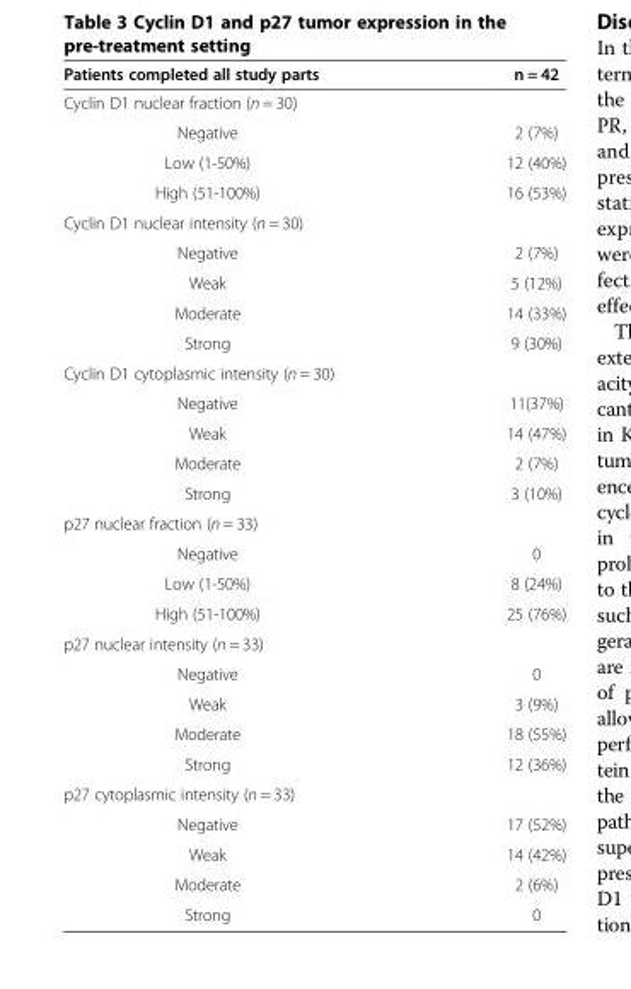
<table><thead><tr><td>Patients completed all study parts</td><td>n = 42</td></tr></thead><tbody><tr><td colspan="2">Cyclin D1 nuclear fraction (n = 30)</td></tr><tr><td>Negative</td><td>2 (7%)</td></tr><tr><td>Low (1-50%)</td><td>12 (40%)</td></tr><tr><td>High (51-100%)</td><td>16 (53%)</td></tr><tr><td colspan="2">Cyclin D1 nuclear intensity (n = 30)</td></tr><tr><td>Negative</td><td>2 (7%)</td></tr><tr><td>Weak</td><td>5 (12%)</td></tr><tr><td>Moderate</td><td>14 (33%)</td></tr><tr><td>Strong</td><td>9 (30%)</td></tr><tr><td colspan="2">Cyclin D1 cytoplasmic intensity (n = 30)</td></tr><tr><td>Negative</td><td>11(37%)</td></tr><tr><td>Weak</td><td>14 (47%)</td></tr><tr><td>Moderate</td><td>2 (7%)</td></tr><tr><td>Strong</td><td>3 (10%)</td></tr><tr><td colspan="2">p27 nuclear fraction (n = 33)</td></tr><tr><td>Negative</td><td>0</td></tr><tr><td>Low (1-50%)</td><td>8 (24%)</td></tr><tr><td>High (51-100%)</td><td>25 (76%)</td></tr><tr><td colspan="2">p27 nuclear intensity (n = 33)</td></tr><tr><td>Negative</td><td>0</td></tr><tr><td>Weak</td><td>3 (9%)</td></tr><tr><td>Moderate</td><td>18 (55%)</td></tr><tr><td>Strong</td><td>12 (36%)</td></tr><tr><td colspan="2">p27 cytoplasmic intensity (n = 33)</td></tr><tr><td>Negative</td><td>17 (52%)</td></tr><tr><td>Weak</td><td>14 (42%)</td></tr><tr><td>Moderate</td><td>2 (6%)</td></tr><tr><td>Strong</td><td>0</td></tr></tbody></table>